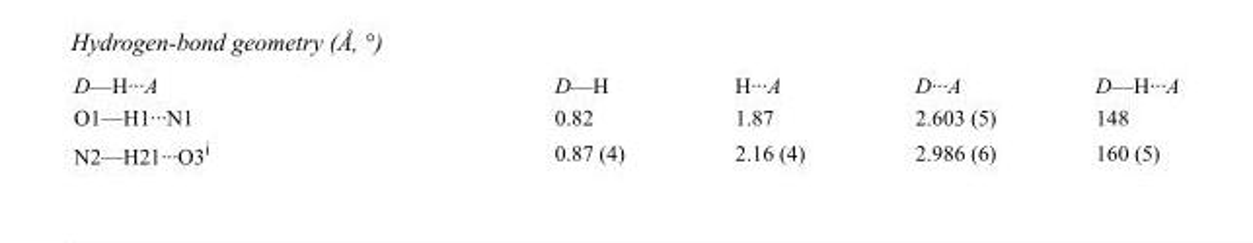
<table><tbody><tr><td>D—H···A</td><td>D—H</td><td>H···A</td><td>D···A</td><td>D—H···A</td></tr><tr><td>O1—H1···N1</td><td>0.82</td><td>1.87</td><td>2.603 (5)</td><td>148</td></tr><tr><td>N2—H21···O3<sup>i</sup></td><td>0.87 (4)</td><td>2.16 (4)</td><td>2.986 (6)</td><td>160 (5)</td></tr></tbody></table>